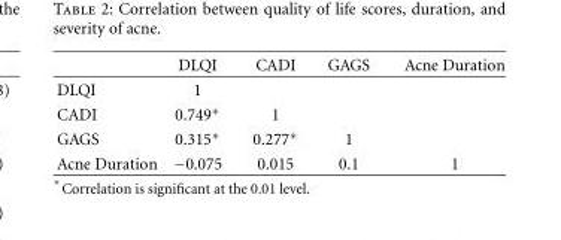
<table><thead><tr><td></td><td>DLQI</td><td>CADI</td><td>GAGS</td><td>Acne Duration</td></tr></thead><tbody><tr><td>DLQI</td><td>1</td><td></td><td></td><td></td></tr><tr><td>CADI</td><td>0.749∗</td><td>1</td><td></td><td></td></tr><tr><td>GAGS</td><td>0.315∗</td><td>0.277∗</td><td>1</td><td></td></tr><tr><td>Acne Duration</td><td>−0.075</td><td>0.015</td><td>0.1</td><td>1</td></tr></tbody></table>